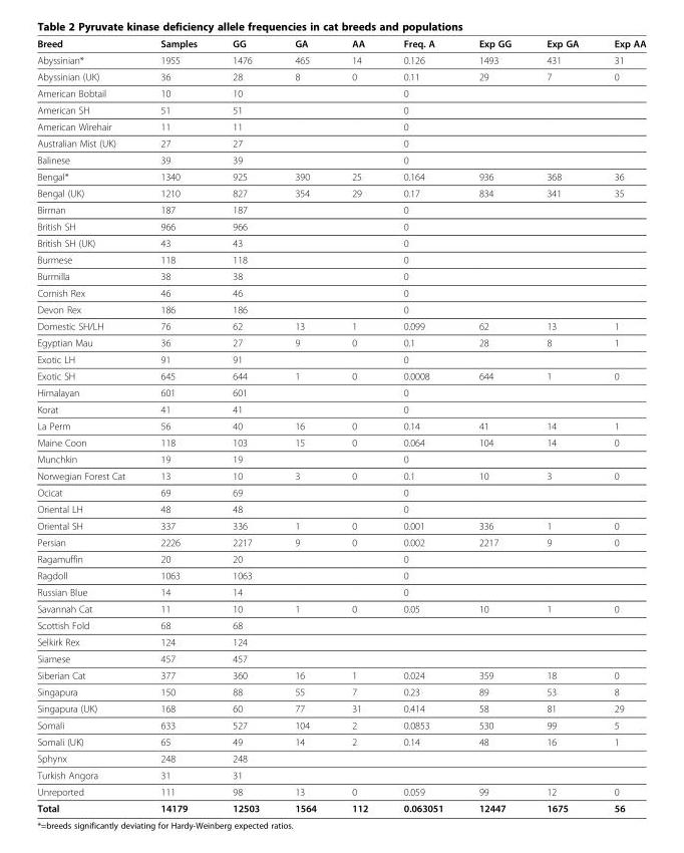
<table><thead><tr><td>Breed</td><td>Samples</td><td>GG</td><td>GA</td><td>AA</td><td>Freq. A</td><td>Exp GG</td><td>Exp GA</td><td>Exp AA</td></tr></thead><tbody><tr><td>Abyssinian*</td><td>1955</td><td>1476</td><td>465</td><td>14</td><td>0.126</td><td>1493</td><td>431</td><td>31</td></tr><tr><td>Abyssinian (UK)</td><td>36</td><td>28</td><td>8</td><td>0</td><td>0.11</td><td>29</td><td>7</td><td>0</td></tr><tr><td>American Bobtail</td><td>10</td><td>10</td><td></td><td></td><td>0</td><td></td><td></td><td></td></tr><tr><td>American SH</td><td>51</td><td>51</td><td></td><td></td><td>0</td><td></td><td></td><td></td></tr><tr><td>American Wirehair</td><td>11</td><td>11</td><td></td><td></td><td>0</td><td></td><td></td><td></td></tr><tr><td>Australian Mist (UK)</td><td>27</td><td>27</td><td></td><td></td><td>0</td><td></td><td></td><td></td></tr><tr><td>Balinese</td><td>39</td><td>39</td><td></td><td></td><td>0</td><td></td><td></td><td></td></tr><tr><td>Bengal*</td><td>1340</td><td>925</td><td>390</td><td>25</td><td>0.164</td><td>936</td><td>368</td><td>36</td></tr><tr><td>Bengal (UK)</td><td>1210</td><td>827</td><td>354</td><td>29</td><td>0.17</td><td>834</td><td>341</td><td>35</td></tr><tr><td>Birman</td><td>187</td><td>187</td><td></td><td></td><td>0</td><td></td><td></td><td></td></tr><tr><td>British SH</td><td>966</td><td>966</td><td></td><td></td><td>0</td><td></td><td></td><td></td></tr><tr><td>British SH (UK)</td><td>43</td><td>43</td><td></td><td></td><td>0</td><td></td><td></td><td></td></tr><tr><td>Burmese</td><td>118</td><td>118</td><td></td><td></td><td>0</td><td></td><td></td><td></td></tr><tr><td>Burmilla</td><td>38</td><td>38</td><td></td><td></td><td>0</td><td></td><td></td><td></td></tr><tr><td>Cornish Rex</td><td>46</td><td>46</td><td></td><td></td><td>0</td><td></td><td></td><td></td></tr><tr><td>Devon Rex</td><td>186</td><td>186</td><td></td><td></td><td>0</td><td></td><td></td><td></td></tr><tr><td>Domestic SH/LH</td><td>76</td><td>62</td><td>13</td><td>1</td><td>0.099</td><td>62</td><td>13</td><td>1</td></tr><tr><td>Egyptian Mau</td><td>36</td><td>27</td><td>9</td><td>0</td><td>0.1</td><td>28</td><td>8</td><td>1</td></tr><tr><td>Exotic LH</td><td>91</td><td>91</td><td></td><td></td><td>0</td><td></td><td></td><td></td></tr><tr><td>Exotic SH</td><td>645</td><td>644</td><td>1</td><td>0</td><td>0.0008</td><td>644</td><td>1</td><td>0</td></tr><tr><td>Himalayan</td><td>601</td><td>601</td><td></td><td></td><td>0</td><td></td><td></td><td></td></tr><tr><td>Korat</td><td>41</td><td>41</td><td></td><td></td><td>0</td><td></td><td></td><td></td></tr><tr><td>La Perm</td><td>56</td><td>40</td><td>16</td><td>0</td><td>0.14</td><td>41</td><td>14</td><td>1</td></tr><tr><td>Maine Coon</td><td>118</td><td>103</td><td>15</td><td>0</td><td>0.064</td><td>104</td><td>14</td><td>0</td></tr><tr><td>Munchkin</td><td>19</td><td>19</td><td></td><td></td><td>0</td><td></td><td></td><td></td></tr><tr><td>Norwegian Forest Cat</td><td>13</td><td>10</td><td>3</td><td>0</td><td>0.1</td><td>10</td><td>3</td><td>0</td></tr><tr><td>Ocicat</td><td>69</td><td>69</td><td></td><td></td><td>0</td><td></td><td></td><td></td></tr><tr><td>Oriental LH</td><td>48</td><td>48</td><td></td><td></td><td>0</td><td></td><td></td><td></td></tr><tr><td>Oriental SH</td><td>337</td><td>336</td><td>1</td><td>0</td><td>0.001</td><td>336</td><td>1</td><td>0</td></tr><tr><td>Persian</td><td>2226</td><td>2217</td><td>9</td><td>0</td><td>0.002</td><td>2217</td><td>9</td><td>0</td></tr><tr><td>Ragamuffin</td><td>20</td><td>20</td><td></td><td></td><td>0</td><td></td><td></td><td></td></tr><tr><td>Ragdoll</td><td>1063</td><td>1063</td><td></td><td></td><td>0</td><td></td><td></td><td></td></tr><tr><td>Russian Blue</td><td>14</td><td>14</td><td></td><td></td><td>0</td><td></td><td></td><td></td></tr><tr><td>Savannah Cat</td><td>11</td><td>10</td><td>1</td><td>0</td><td>0.05</td><td>10</td><td>1</td><td>0</td></tr><tr><td>Scottish Fold</td><td>68</td><td>68</td><td></td><td></td><td></td><td></td><td></td><td></td></tr><tr><td>Selkirk Rex</td><td>124</td><td>124</td><td></td><td></td><td></td><td></td><td></td><td></td></tr><tr><td>Siamese</td><td>457</td><td>457</td><td></td><td></td><td></td><td></td><td></td><td></td></tr><tr><td>Siberian Cat</td><td>377</td><td>360</td><td>16</td><td>1</td><td>0.024</td><td>359</td><td>18</td><td>0</td></tr><tr><td>Singapura</td><td>150</td><td>88</td><td>55</td><td>7</td><td>0.23</td><td>89</td><td>53</td><td>8</td></tr><tr><td>Singapura (UK)</td><td>168</td><td>60</td><td>77</td><td>31</td><td>0.414</td><td>58</td><td>81</td><td>29</td></tr><tr><td>Somali</td><td>633</td><td>527</td><td>104</td><td>2</td><td>0.0853</td><td>530</td><td>99</td><td>5</td></tr><tr><td>Somali (UK)</td><td>65</td><td>49</td><td>14</td><td>2</td><td>0.14</td><td>48</td><td>16</td><td>1</td></tr><tr><td>Sphynx</td><td>248</td><td>248</td><td></td><td></td><td></td><td></td><td></td><td></td></tr><tr><td>Turkish Angora</td><td>31</td><td>31</td><td></td><td></td><td></td><td></td><td></td><td></td></tr><tr><td>Unreported</td><td>111</td><td>98</td><td>13</td><td>0</td><td>0.059</td><td>99</td><td>12</td><td>0</td></tr><tr><td>Total</td><td>14179</td><td>12503</td><td>1564</td><td>112</td><td>0.063051</td><td>12447</td><td>1675</td><td>56</td></tr></tbody></table>